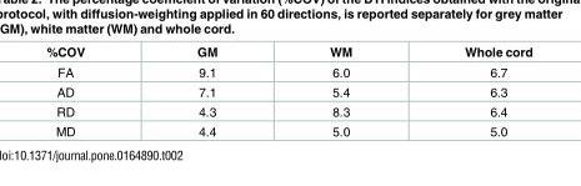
<table><thead><tr><td>%COV</td><td>GM</td><td>WM</td><td>Whole cord</td></tr></thead><tbody><tr><td>FA</td><td>9.1</td><td>6.0</td><td>6.7</td></tr><tr><td>AD</td><td>7.1</td><td>5.4</td><td>6.3</td></tr><tr><td>RD</td><td>4.3</td><td>8.3</td><td>6.4</td></tr><tr><td>MD</td><td>4.4</td><td>5.0</td><td>5.0</td></tr></tbody></table>